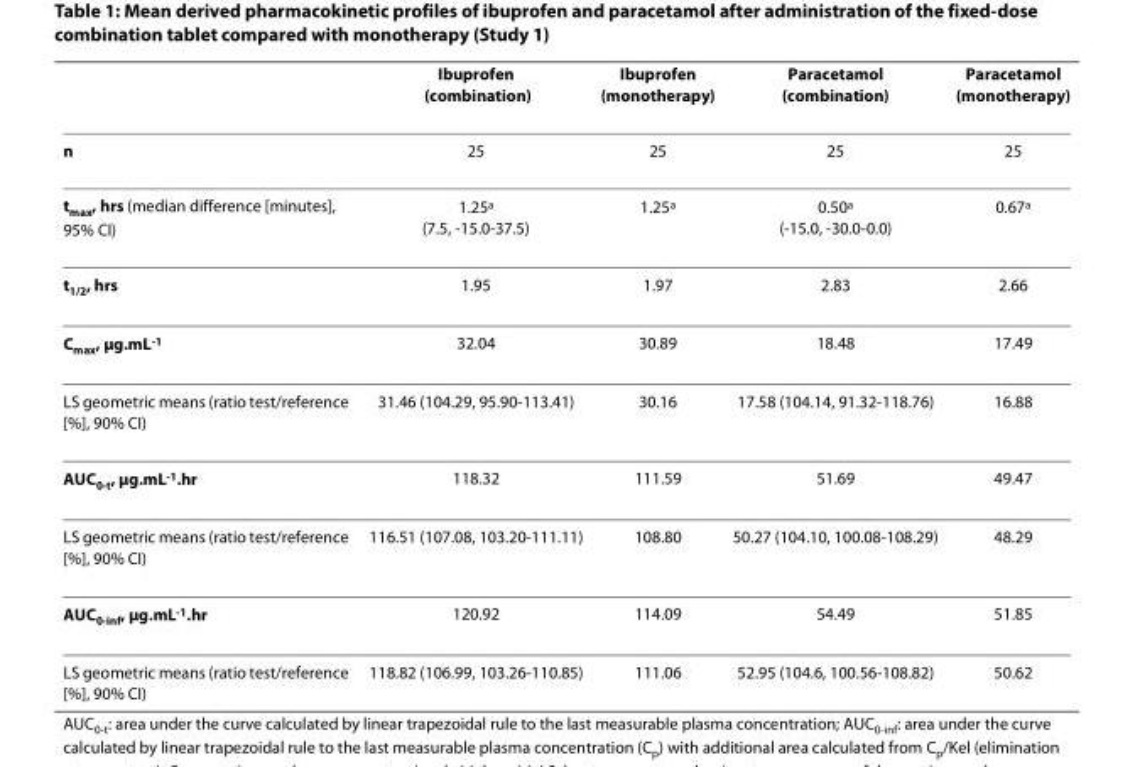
<table><thead><tr><td></td><td>Ibuprofen (combination)</td><td>Ibuprofen (monotherapy)</td><td>Paracetamol (combination)</td><td>Paracetamol (monotherapy)</td></tr></thead><tbody><tr><td>n</td><td>25</td><td>25</td><td>25</td><td>25</td></tr><tr><td>t<sub>max</sub>, hrs (median difference [minutes], 95% CI)</td><td>1.25<sup>a</sup> (7.5, -15.0-37.5)</td><td>1.25<sup>a</sup></td><td>0.50<sup>a</sup> (-15.0, -30.0-0.0)</td><td>0.67<sup>a</sup></td></tr><tr><td>t<sub>1/2</sub>, hrs</td><td>1.95</td><td>1.97</td><td>2.83</td><td>2.66</td></tr><tr><td>C<sub>max</sub>, μg.mL<sup>-1</sup></td><td>32.04</td><td>30.89</td><td>18.48</td><td>17.49</td></tr><tr><td>LS geometric means (ratio test/reference [%], 90% CI)</td><td>31.46 (104.29, 95.90-113.41)</td><td>30.16</td><td>17.58 (104.14, 91.32-118.76)</td><td>16.88</td></tr><tr><td>AUC<sub>0-t</sub>, μg.mL<sup>-1</sup>.hr</td><td>118.32</td><td>111.59</td><td>51.69</td><td>49.47</td></tr><tr><td>LS geometric means (ratio test/reference [%], 90% CI)</td><td>116.51 (107.08, 103.20-111.11)</td><td>108.80</td><td>50.27 (104.10, 100.08-108.29)</td><td>48.29</td></tr><tr><td>AUC<sub>0-inf</sub>, μg.mL<sup>-1</sup>.hr</td><td>120.92</td><td>114.09</td><td>54.49</td><td>51.85</td></tr><tr><td>LS geometric means (ratio test/reference [%], 90% CI)</td><td>118.82 (106.99, 103.26-110.85)</td><td>111.06</td><td>52.95 (104.6, 100.56-108.82)</td><td>50.62</td></tr></tbody></table>